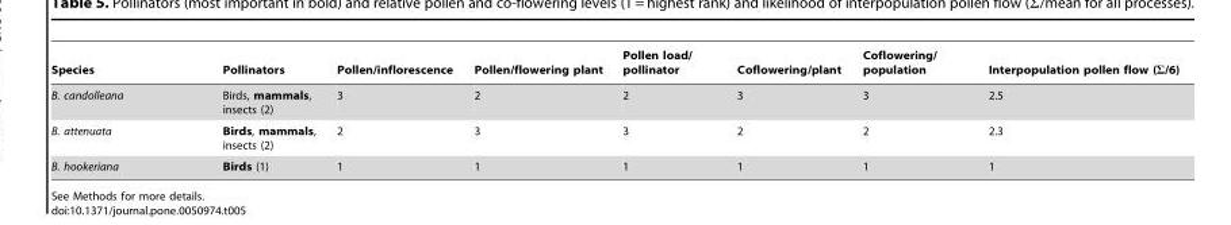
<table><thead><tr><td>Species</td><td>Pollinators</td><td>Pollen/inflorescence</td><td>Pollen/flowering plant</td><td>Pollen load/ pollinator</td><td>Coflowering/plant</td><td>Coflowering/ population</td><td>Interpopulation pollen flow (Σ/6)</td></tr></thead><tbody><tr><td>B. candolleana</td><td>Birds, mammals, insects (2)</td><td>3</td><td>2</td><td>2</td><td>3</td><td>3</td><td>2.5</td></tr><tr><td>B. attenuata</td><td>Birds, mammals, insects (2)</td><td>2</td><td>3</td><td>3</td><td>2</td><td>2</td><td>2.3</td></tr><tr><td>B. hookeriana</td><td>Birds (1)</td><td>1</td><td>1</td><td>1</td><td>1</td><td>1</td><td>1</td></tr></tbody></table>